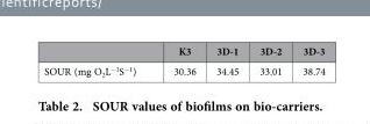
<table><thead><tr><td></td><td>K3</td><td>3D-1</td><td>3D-2</td><td>3D-3</td></tr></thead><tbody><tr><td>SOUR (mg O<sub>2</sub>L<sup>−1</sup>S<sup>−1</sup>)</td><td>30.36</td><td>34.45</td><td>33.01</td><td>38.74</td></tr></tbody></table>